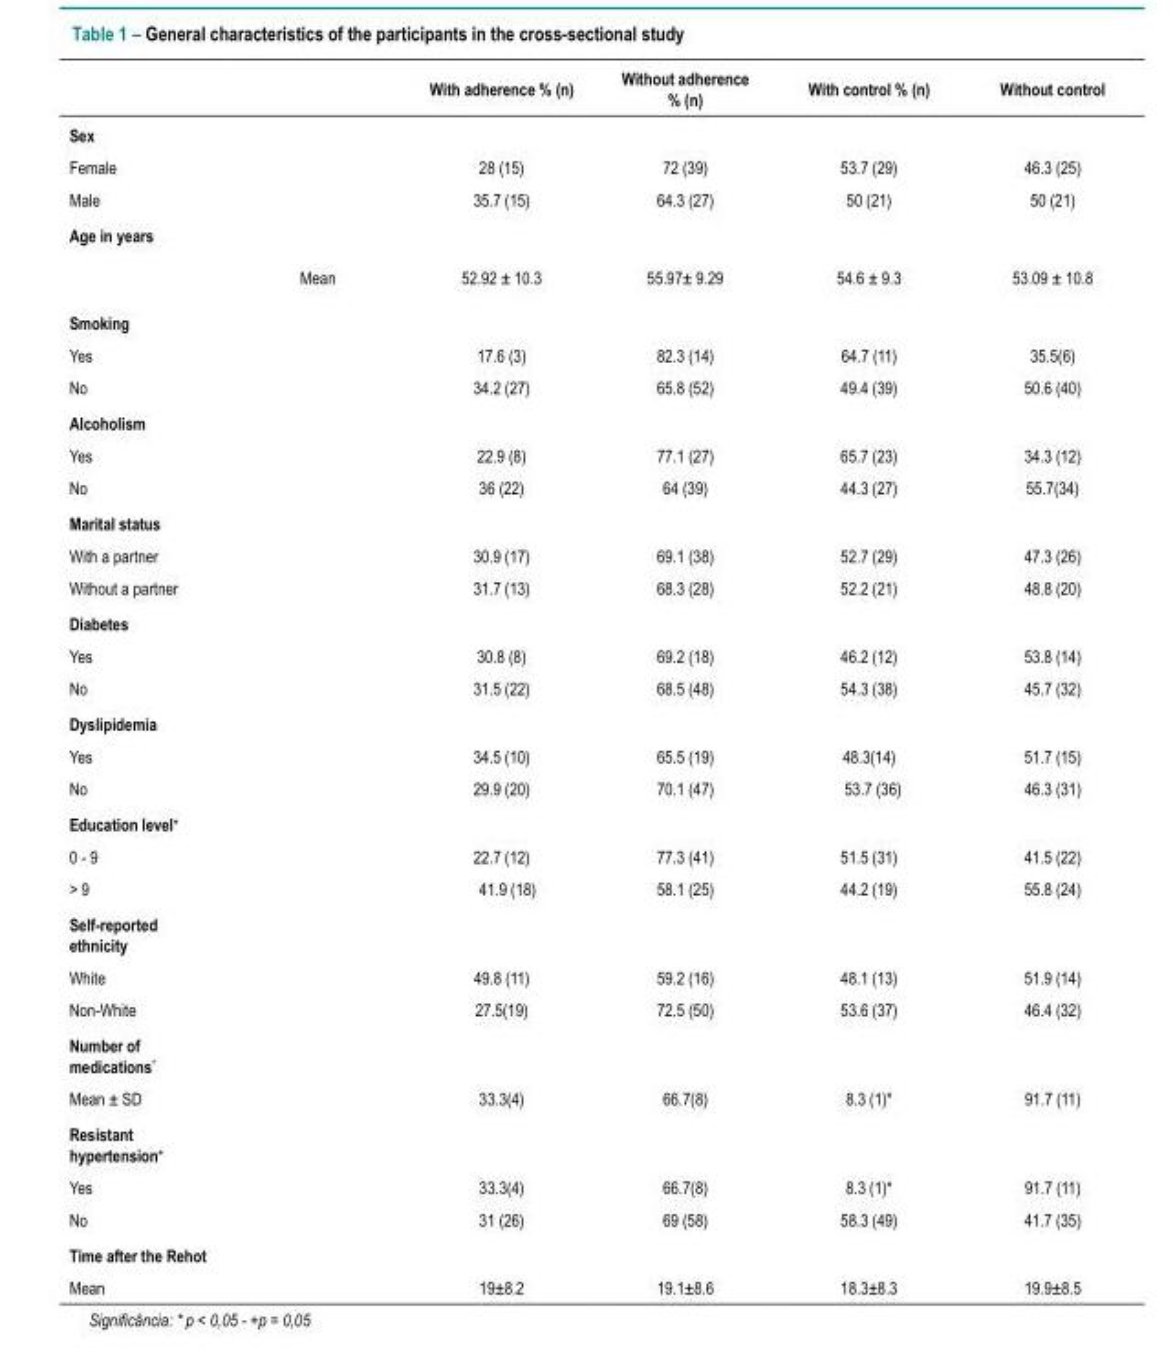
<table><thead><tr><td></td><td></td><td>With adherence % (n)</td><td>Without adherence % (n)</td><td>With control % (n)</td><td>Without control</td></tr></thead><tbody><tr><td colspan="6">Sex</td></tr><tr><td>Female</td><td></td><td>28 (15)</td><td>72 (39)</td><td>53.7 (29)</td><td>46.3 (25)</td></tr><tr><td>Male</td><td></td><td>35.7 (15)</td><td>64.3 (27)</td><td>50 (21)</td><td>50 (21)</td></tr><tr><td colspan="6">Age in years</td></tr><tr><td></td><td>Mean</td><td>52.92 ± 10.3</td><td>55.97± 9.29</td><td>54.6 ± 9.3</td><td>53.09 ± 10.8</td></tr><tr><td colspan="6">Smoking</td></tr><tr><td>Yes</td><td></td><td>17.6 (3)</td><td>82.3 (14)</td><td>64.7 (11)</td><td>35.5(6)</td></tr><tr><td>No</td><td></td><td>34.2 (27)</td><td>65.8 (52)</td><td>49.4 (39)</td><td>50.6 (40)</td></tr><tr><td colspan="6">Alcoholism</td></tr><tr><td>Yes</td><td></td><td>22.9 (8)</td><td>77.1 (27)</td><td>65.7 (23)</td><td>34.3 (12)</td></tr><tr><td>No</td><td></td><td>36 (22)</td><td>64 (39)</td><td>44.3 (27)</td><td>55.7(34)</td></tr><tr><td colspan="6">Marital status</td></tr><tr><td>With a partner</td><td></td><td>30.9 (17)</td><td>69.1 (38)</td><td>52.7 (29)</td><td>47.3 (26)</td></tr><tr><td>Without a partner</td><td></td><td>31.7 (13)</td><td>68.3 (28)</td><td>52.2 (21)</td><td>48.8 (20)</td></tr><tr><td colspan="6">Diabetes</td></tr><tr><td>Yes</td><td></td><td>30.8 (8)</td><td>69.2 (18)</td><td>46.2 (12)</td><td>53.8 (14)</td></tr><tr><td>No</td><td></td><td>31.5 (22)</td><td>68.5 (48)</td><td>54.3 (38)</td><td>45.7 (32)</td></tr><tr><td colspan="6">Dyslipidemia</td></tr><tr><td>Yes</td><td></td><td>34.5 (10)</td><td>65.5 (19)</td><td>48.3(14)</td><td>51.7 (15)</td></tr><tr><td>No</td><td></td><td>29.9 (20)</td><td>70.1 (47)</td><td>53.7 (36)</td><td>46.3 (31)</td></tr><tr><td colspan="6">Education level<sup>+</sup></td></tr><tr><td>0 - 9</td><td></td><td>22.7 (12)</td><td>77.3 (41)</td><td>51.5 (31)</td><td>41.5 (22)</td></tr><tr><td>&gt; 9</td><td></td><td>41.9 (18)</td><td>58.1 (25)</td><td>44.2 (19)</td><td>55.8 (24)</td></tr><tr><td colspan="6">Self-reported ethnicity</td></tr><tr><td>White</td><td></td><td>49.8 (11)</td><td>59.2 (16)</td><td>48.1 (13)</td><td>51.9 (14)</td></tr><tr><td>Non-White</td><td></td><td>27.5(19)</td><td>72.5 (50)</td><td>53.6 (37)</td><td>46.4 (32)</td></tr><tr><td colspan="6">Number of medications*</td></tr><tr><td>Mean ± SD</td><td></td><td>33.3(4)</td><td>66.7(8)</td><td>8.3 (1)*</td><td>91.7 (11)</td></tr><tr><td colspan="6">Resistant hypertension<sup>+</sup></td></tr><tr><td>Yes</td><td></td><td>33.3(4)</td><td>66.7(8)</td><td>8.3 (1)*</td><td>91.7 (11)</td></tr><tr><td>No</td><td></td><td>31 (26)</td><td>69 (58)</td><td>58.3 (49)</td><td>41.7 (35)</td></tr><tr><td colspan="6">Time after the Rehot</td></tr><tr><td>Mean</td><td></td><td>19±8.2</td><td>19.1±8.6</td><td>18.3±8.3</td><td>19.9±8.5</td></tr></tbody></table>